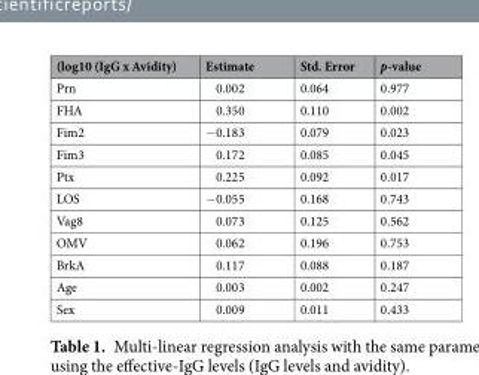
<table><thead><tr><td>(log10 (IgG x Avidity)</td><td>Estimate</td><td>Std. Error</td><td>p-value</td></tr></thead><tbody><tr><td>Prn</td><td>0.002</td><td>0.064</td><td>0.977</td></tr><tr><td>FHA</td><td>0.350</td><td>0.110</td><td>0.002</td></tr><tr><td>Fim2</td><td>−0.183</td><td>0.079</td><td>0.023</td></tr><tr><td>Fim3</td><td>0.172</td><td>0.085</td><td>0.045</td></tr><tr><td>Ptx</td><td>0.225</td><td>0.092</td><td>0.017</td></tr><tr><td>LOS</td><td>−0.055</td><td>0.168</td><td>0.743</td></tr><tr><td>Vag8</td><td>0.073</td><td>0.125</td><td>0.562</td></tr><tr><td>OMV</td><td>0.062</td><td>0.196</td><td>0.753</td></tr><tr><td>BrkA</td><td>0.117</td><td>0.088</td><td>0.187</td></tr><tr><td>Age</td><td>0.003</td><td>0.002</td><td>0.247</td></tr><tr><td>Sex</td><td>0.009</td><td>0.011</td><td>0.433</td></tr></tbody></table>